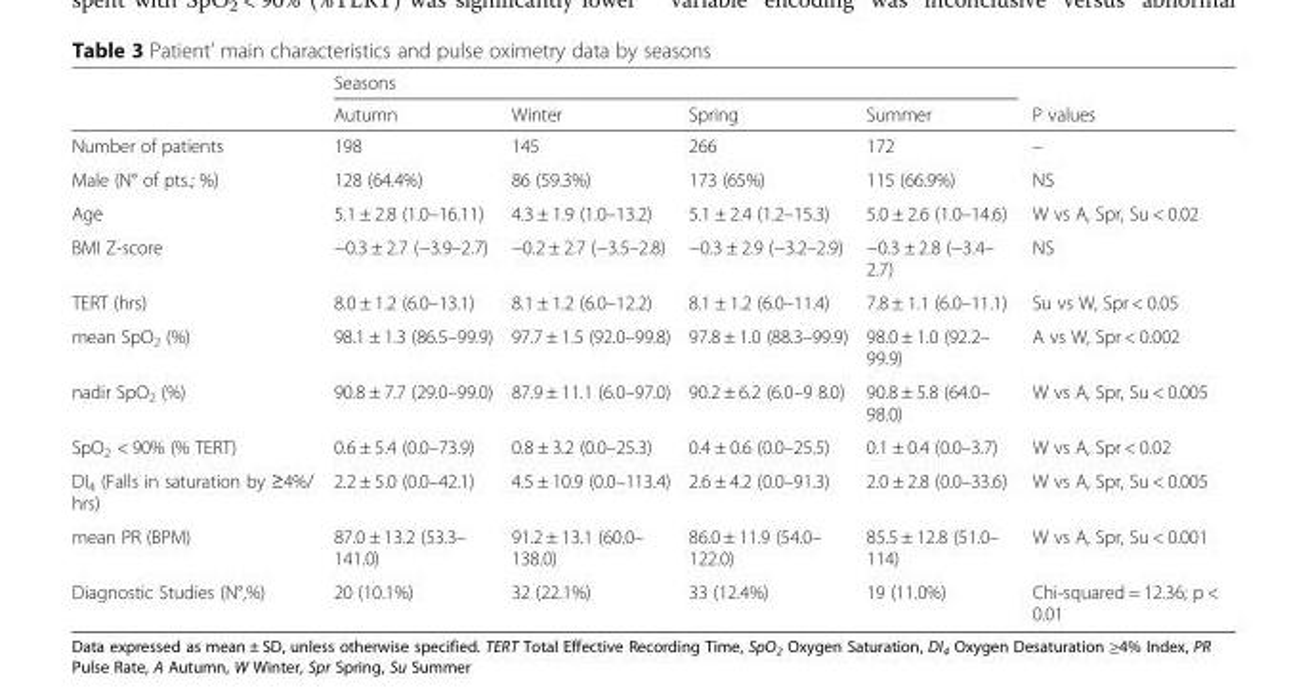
<table><thead><tr><td rowspan="2"></td><td colspan="4">Seasons</td><td rowspan="2">P values</td></tr><tr><td>Autumn</td><td>Winter</td><td>Spring</td><td>Summer</td></tr></thead><tbody><tr><td>Number of patients</td><td>198</td><td>145</td><td>266</td><td>172</td><td>–</td></tr><tr><td>Male (N° of pts.; %)</td><td>128 (64.4%)</td><td>86 (59.3%)</td><td>173 (65%)</td><td>115 (66.9%)</td><td>NS</td></tr><tr><td>Age</td><td>5.1 ± 2.8 (1.0–16.11)</td><td>4.3 ± 1.9 (1.0–13.2)</td><td>5.1 ± 2.4 (1.2–15.3)</td><td>5.0 ± 2.6 (1.0–14.6)</td><td>W vs A, Spr, Su &lt; 0.02</td></tr><tr><td>BMI Z-score</td><td>−0.3 ± 2.7 (−3.9–2.7)</td><td>−0.2 ± 2.7 (−3.5–2.8)</td><td>−0.3 ± 2.9 (−3.2–2.9)</td><td>−0.3 ± 2.8 (−3.4– 2.7)</td><td>NS</td></tr><tr><td>TERT (hrs)</td><td>8.0 ± 1.2 (6.0–13.1)</td><td>8.1 ± 1.2 (6.0–12.2)</td><td>8.1 ± 1.2 (6.0–11.4)</td><td>7.8 ± 1.1 (6.0–11.1)</td><td>Su vs W, Spr &lt; 0.05</td></tr><tr><td>mean SpO<sub>2</sub> (%)</td><td>98.1 ± 1.3 (86.5–99.9)</td><td>97.7 ± 1.5 (92.0–99.8)</td><td>97.8 ± 1.0 (88.3–99.9)</td><td>98.0 ± 1.0 (92.2– 99.9)</td><td>A vs W, Spr &lt; 0.002</td></tr><tr><td>nadir SpO<sub>2</sub> (%)</td><td>90.8 ± 7.7 (29.0–99.0)</td><td>87.9 ± 11.1 (6.0–97.0)</td><td>90.2 ± 6.2 (6.0–9 8.0)</td><td>90.8 ± 5.8 (64.0– 98.0)</td><td>W vs A, Spr, Su &lt; 0.005</td></tr><tr><td>SpO<sub>2</sub> &lt; 90% (% TERT)</td><td>0.6 ± 5.4 (0.0–73.9)</td><td>0.8 ± 3.2 (0.0–25.3)</td><td>0.4 ± 0.6 (0.0–25.5)</td><td>0.1 ± 0.4 (0.0–3.7)</td><td>W vs A, Spr &lt; 0.02</td></tr><tr><td>DI<sub>4</sub> (Falls in saturation by ≥4%/ hrs)</td><td>2.2 ± 5.0 (0.0–42.1)</td><td>4.5 ± 10.9 (0.0–113.4)</td><td>2.6 ± 4.2 (0.0–91.3)</td><td>2.0 ± 2.8 (0.0–33.6)</td><td>W vs A, Spr, Su &lt; 0.005</td></tr><tr><td>mean PR (BPM)</td><td>87.0 ± 13.2 (53.3– 141.0)</td><td>91.2 ± 13.1 (60.0– 138.0)</td><td>86.0 ± 11.9 (54.0– 122.0)</td><td>85.5 ± 12.8 (51.0– 114)</td><td>W vs A, Spr, Su &lt; 0.001</td></tr><tr><td>Diagnostic Studies (N°,%)</td><td>20 (10.1%)</td><td>32 (22.1%)</td><td>33 (12.4%)</td><td>19 (11.0%)</td><td>Chi-squared = 12.36; p &lt; 0.01</td></tr></tbody></table>